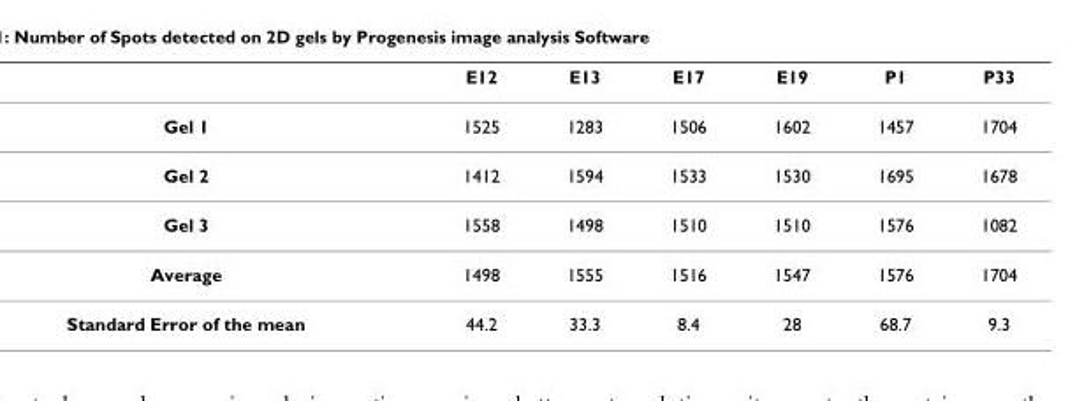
<table><thead><tr><td></td><td>E12</td><td>E13</td><td>E17</td><td>E19</td><td>P1</td><td>P33</td></tr></thead><tbody><tr><td>Gel 1</td><td>1525</td><td>1283</td><td>1506</td><td>1602</td><td>1457</td><td>1704</td></tr><tr><td>Gel 2</td><td>1412</td><td>1594</td><td>1533</td><td>1530</td><td>1695</td><td>1678</td></tr><tr><td>Gel 3</td><td>1558</td><td>1498</td><td>1510</td><td>1510</td><td>1576</td><td>1082</td></tr><tr><td>Average</td><td>1498</td><td>1555</td><td>1516</td><td>1547</td><td>1576</td><td>1704</td></tr><tr><td>Standard Error of the mean</td><td>44.2</td><td>33.3</td><td>8.4</td><td>28</td><td>68.7</td><td>9.3</td></tr></tbody></table>